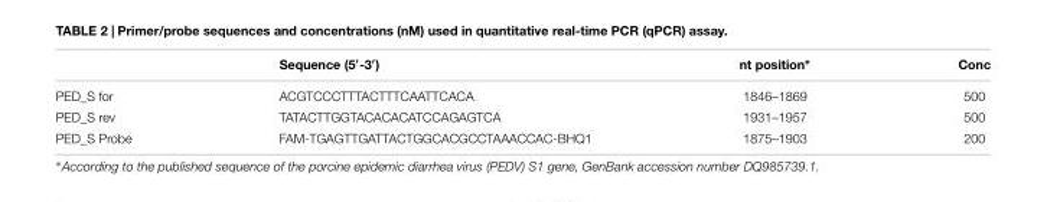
<table><thead><tr><td></td><td>Sequence (5′-3′)</td><td>nt position∗</td><td>Conc</td></tr></thead><tbody><tr><td>PED_S for</td><td>ACGTCCCTTTACTTTCAATTCACA</td><td>1846–1869</td><td>500</td></tr><tr><td>PED_S rev</td><td>TATACTTGGTACACACATCCAGAGTCA</td><td>1931–1957</td><td>500</td></tr><tr><td>PED_S Probe</td><td>FAM-TGAGTTGATTACTGGCACGCCTAAACCAC-BHQ1</td><td>1875–1903</td><td>200</td></tr></tbody></table>